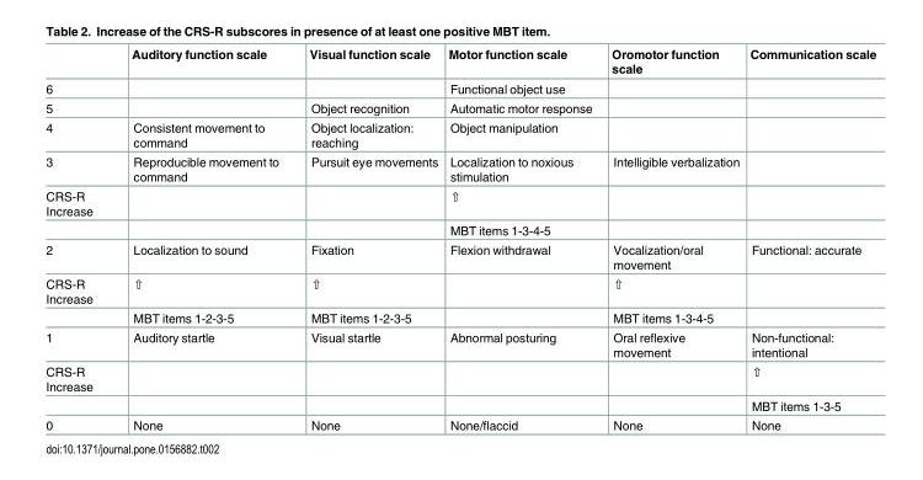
<table><thead><tr><td></td><td>Auditory function scale</td><td>Visual function scale</td><td>Motor function scale</td><td>Oromotor function scale</td><td>Communication scale</td></tr></thead><tbody><tr><td>6</td><td></td><td></td><td>Functional object use</td><td></td><td></td></tr><tr><td>5</td><td></td><td>Object recognition</td><td>Automatic motor response</td><td></td><td></td></tr><tr><td>4</td><td>Consistent movement to command</td><td>Object localization: reaching</td><td>Object manipulation</td><td></td><td></td></tr><tr><td>3</td><td>Reproducible movement to command</td><td>Pursuit eye movements</td><td>Localization to noxious stimulation</td><td>Intelligible verbalization</td><td></td></tr><tr><td rowspan="2">CRS-R Increase</td><td></td><td></td><td>⇧</td><td></td><td></td></tr><tr><td></td><td></td><td>MBT items 1-3-4-5</td><td></td><td></td></tr><tr><td>2</td><td>Localization to sound</td><td>Fixation</td><td>Flexion withdrawal</td><td>Vocalization/oral movement</td><td>Functional: accurate</td></tr><tr><td rowspan="2">CRS-R Increase</td><td>⇧</td><td>⇧</td><td></td><td>⇧</td><td></td></tr><tr><td>MBT items 1-2-3-5</td><td>MBT items 1-2-3-5</td><td></td><td>MBT items 1-3-4-5</td><td></td></tr><tr><td>1</td><td>Auditory startle</td><td>Visual startle</td><td>Abnormal posturing</td><td>Oral reflexive movement</td><td>Non-functional: intentional</td></tr><tr><td rowspan="2">CRS-R Increase</td><td></td><td></td><td></td><td></td><td>⇧</td></tr><tr><td></td><td></td><td></td><td></td><td>MBT items 1-3-5</td></tr><tr><td>0</td><td>None</td><td>None</td><td>None/flaccid</td><td>None</td><td>None</td></tr></tbody></table>